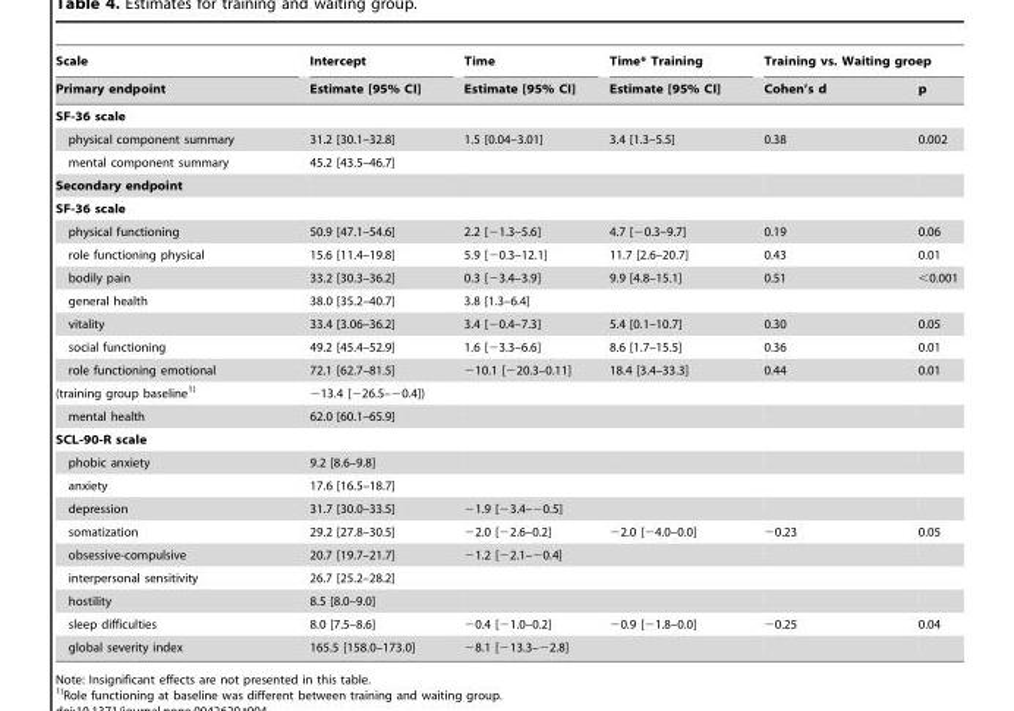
<table><thead><tr><td rowspan="2">Scale Primary endpoint</td><td rowspan="2">Intercept Estimate [95% CI]</td><td rowspan="2">Time Estimate [95% CI]</td><td rowspan="2">Time* Training Estimate [95% CI]</td><td colspan="2">Training vs. Waiting groep</td></tr><tr><td>Cohen’s d</td><td>p</td></tr></thead><tbody><tr><td colspan="6">SF-36 scale</td></tr><tr><td>physical component summary</td><td>31.2 [30.1–32.8]</td><td>1.5 [0.04–3.01]</td><td>3.4 [1.3–5.5]</td><td>0.38</td><td>0.002</td></tr><tr><td>mental component summary</td><td>45.2 [43.5–46.7]</td><td></td><td></td><td></td><td></td></tr><tr><td colspan="6">Secondary endpoint</td></tr><tr><td colspan="6">SF-36 scale</td></tr><tr><td>physical functioning</td><td>50.9 [47.1–54.6]</td><td>2.2 [−1.3–5.6]</td><td>4.7 [−0.3–9.7]</td><td>0.19</td><td>0.06</td></tr><tr><td>role functioning physical</td><td>15.6 [11.4–19.8]</td><td>5.9 [−0.3–12.1]</td><td>11.7 [2.6–20.7]</td><td>0.43</td><td>0.01</td></tr><tr><td>bodily pain</td><td>33.2 [30.3–36.2]</td><td>0.3 [−3.4–3.9]</td><td>9.9 [4.8–15.1]</td><td>0.51</td><td>&lt;0.001</td></tr><tr><td>general health</td><td>38.0 [35.2–40.7]</td><td>3.8 [1.3–6.4]</td><td></td><td></td><td></td></tr><tr><td>vitality</td><td>33.4 [3.06–36.2]</td><td>3.4 [−0.4–7.3]</td><td>5.4 [0.1–10.7]</td><td>0.30</td><td>0.05</td></tr><tr><td>social functioning</td><td>49.2 [45.4–52.9]</td><td>1.6 [−3.3–6.6]</td><td>8.6 [1.7–15.5]</td><td>0.36</td><td>0.01</td></tr><tr><td>role functioning emotional</td><td>72.1 [62.7–81.5]</td><td>−10.1 [−20.3–0.11]</td><td>18.4 [3.4–33.3]</td><td>0.44</td><td>0.01</td></tr><tr><td>(training group baseline1)</td><td>−13.4 [−26.5–−0.4])</td><td></td><td></td><td></td><td></td></tr><tr><td>mental health</td><td>62.0 [60.1–65.9]</td><td></td><td></td><td></td><td></td></tr><tr><td colspan="6">SCL-90-R scale</td></tr><tr><td>phobic anxiety</td><td>9.2 [8.6–9.8]</td><td></td><td></td><td></td><td></td></tr><tr><td>anxiety</td><td>17.6 [16.5–18.7]</td><td></td><td></td><td></td><td></td></tr><tr><td>depression</td><td>31.7 [30.0–33.5]</td><td>−1.9 [−3.4–−0.5]</td><td></td><td></td><td></td></tr><tr><td>somatization</td><td>29.2 [27.8–30.5]</td><td>−2.0 [−2.6–0.2]</td><td>−2.0 [−4.0–0.0]</td><td>−0.23</td><td>0.05</td></tr><tr><td>obsessive-compulsive</td><td>20.7 [19.7–21.7]</td><td>−1.2 [−2.1–−0.4]</td><td></td><td></td><td></td></tr><tr><td>interpersonal sensitivity</td><td>26.7 [25.2–28.2]</td><td></td><td></td><td></td><td></td></tr><tr><td>hostility</td><td>8.5 [8.0–9.0]</td><td></td><td></td><td></td><td></td></tr><tr><td>sleep difficulties</td><td>8.0 [7.5–8.6]</td><td>−0.4 [−1.0–0.2]</td><td>−0.9 [−1.8–0.0]</td><td>−0.25</td><td>0.04</td></tr><tr><td>global severity index</td><td>165.5 [158.0–173.0]</td><td>−8.1 [−13.3–−2.8]</td><td></td><td></td><td></td></tr></tbody></table>